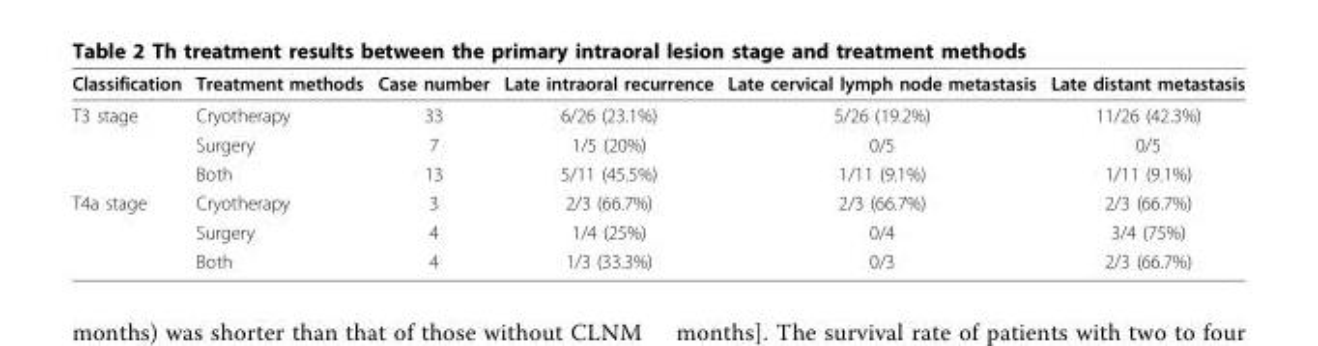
<table><thead><tr><td>Classification</td><td>Treatment methods</td><td>Case number</td><td>Late intraoral recurrence</td><td>Late cervical lymph node metastasis</td><td>Late distant metastasis</td></tr></thead><tbody><tr><td rowspan="3">T3 stage</td><td>Cryotherapy</td><td>33</td><td>6/26 (23.1%)</td><td>5/26 (19.2%)</td><td>11/26 (42.3%)</td></tr><tr><td>Surgery</td><td>7</td><td>1/5 (20%)</td><td>0/5</td><td>0/5</td></tr><tr><td>Both</td><td>13</td><td>5/11 (45.5%)</td><td>1/11 (9.1%)</td><td>1/11 (9.1%)</td></tr><tr><td rowspan="3">T4a stage</td><td>Cryotherapy</td><td>3</td><td>2/3 (66.7%)</td><td>2/3 (66.7%)</td><td>2/3 (66.7%)</td></tr><tr><td>Surgery</td><td>4</td><td>1/4 (25%)</td><td>0/4</td><td>3/4 (75%)</td></tr><tr><td>Both</td><td>4</td><td>1/3 (33.3%)</td><td>0/3</td><td>2/3 (66.7%)</td></tr></tbody></table>